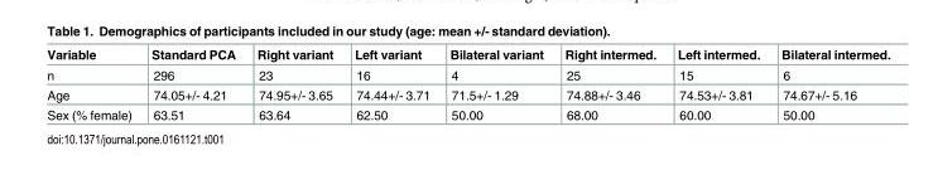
<table><thead><tr><td>Variable</td><td>Standard PCA</td><td>Right variant</td><td>Left variant</td><td>Bilateral variant</td><td>Right intermed.</td><td>Left intermed.</td><td>Bilateral intermed.</td></tr></thead><tbody><tr><td>n</td><td>296</td><td>23</td><td>16</td><td>4</td><td>25</td><td>15</td><td>6</td></tr><tr><td>Age</td><td>74.05+/- 4.21</td><td>74.95+/- 3.65</td><td>74.44+/- 3.71</td><td>71.5+/- 1.29</td><td>74.88+/- 3.46</td><td>74.53+/- 3.81</td><td>74.67+/- 5.16</td></tr><tr><td>Sex (% female)</td><td>63.51</td><td>63.64</td><td>62.50</td><td>50.00</td><td>68.00</td><td>60.00</td><td>50.00</td></tr></tbody></table>